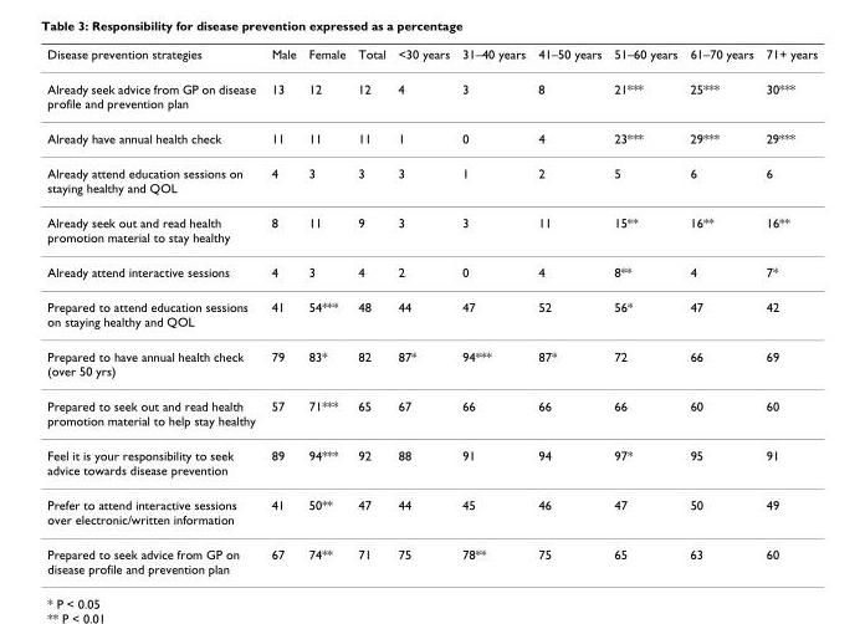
<table><thead><tr><td>Disease prevention strategies</td><td>Male</td><td>Female</td><td>Total</td><td>&lt;30 years</td><td>31–40 years</td><td>41–50 years</td><td>51–60 years</td><td>61–70 years</td><td>71+ years</td></tr></thead><tbody><tr><td>Already seek advice from GP on disease profile and prevention plan</td><td>13</td><td>12</td><td>12</td><td>4</td><td>3</td><td>8</td><td>21***</td><td>25***</td><td>30***</td></tr><tr><td>Already have annual health check</td><td>11</td><td>11</td><td>11</td><td>1</td><td>0</td><td>4</td><td>23***</td><td>29***</td><td>29***</td></tr><tr><td>Already attend education sessions on staying healthy and QOL</td><td>4</td><td>3</td><td>3</td><td>3</td><td>1</td><td>2</td><td>5</td><td>6</td><td>6</td></tr><tr><td>Already seek out and read health promotion material to stay healthy</td><td>8</td><td>11</td><td>9</td><td>3</td><td>3</td><td>11</td><td>15**</td><td>16**</td><td>16**</td></tr><tr><td>Already attend interactive sessions</td><td>4</td><td>3</td><td>4</td><td>2</td><td>0</td><td>4</td><td>8**</td><td>4</td><td>7*</td></tr><tr><td>Prepared to attend education sessions on staying healthy and QOL</td><td>41</td><td>54***</td><td>48</td><td>44</td><td>47</td><td>52</td><td>56*</td><td>47</td><td>42</td></tr><tr><td>Prepared to have annual health check (over 50 yrs)</td><td>79</td><td>83*</td><td>82</td><td>87*</td><td>94***</td><td>87*</td><td>72</td><td>66</td><td>69</td></tr><tr><td>Prepared to seek out and read health promotion material to help stay healthy</td><td>57</td><td>71***</td><td>65</td><td>67</td><td>66</td><td>66</td><td>66</td><td>60</td><td>60</td></tr><tr><td>Feel it is your responsibility to seek advice towards disease prevention</td><td>89</td><td>94***</td><td>92</td><td>88</td><td>91</td><td>94</td><td>97*</td><td>95</td><td>91</td></tr><tr><td>Prefer to attend interactive sessions over electronic/written information</td><td>41</td><td>50**</td><td>47</td><td>44</td><td>45</td><td>46</td><td>47</td><td>50</td><td>49</td></tr><tr><td>Prepared to seek advice from GP on disease profile and prevention plan</td><td>67</td><td>74**</td><td>71</td><td>75</td><td>78**</td><td>75</td><td>65</td><td>63</td><td>60</td></tr></tbody></table>